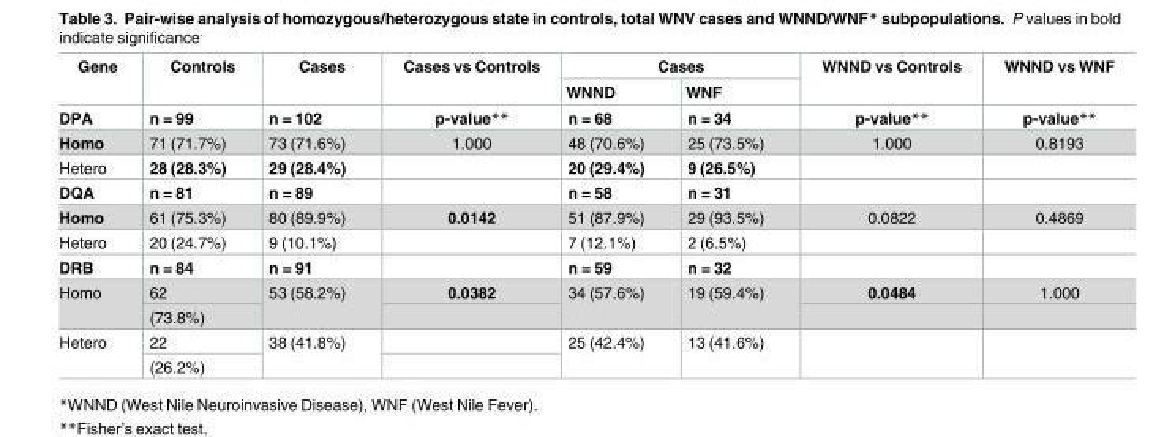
<table><thead><tr><td rowspan="2">Gene</td><td rowspan="2">Controls</td><td rowspan="2">Cases</td><td rowspan="2">Cases vs Controls</td><td colspan="2">Cases</td><td rowspan="2">WNND vs Controls</td><td rowspan="2">WNND vs WNF</td></tr><tr><td>WNND</td><td>WNF</td></tr></thead><tbody><tr><td>DPA</td><td>n = 99</td><td>n = 102</td><td>p-value**</td><td>n = 68</td><td>n = 34</td><td>p-value**</td><td>p-value**</td></tr><tr><td>Homo</td><td>71 (71.7%)</td><td>73 (71.6%)</td><td>1.000</td><td>48 (70.6%)</td><td>25 (73.5%)</td><td>1.000</td><td>0.8193</td></tr><tr><td>Hetero</td><td>28 (28.3%)</td><td>29 (28.4%)</td><td></td><td>20 (29.4%)</td><td>9 (26.5%)</td><td></td><td></td></tr><tr><td>DQA</td><td>n = 81</td><td>n = 89</td><td></td><td>n = 58</td><td>n = 31</td><td></td><td></td></tr><tr><td>Homo</td><td>61 (75.3%)</td><td>80 (89.9%)</td><td>0.0142</td><td>51 (87.9%)</td><td>29 (93.5%)</td><td>0.0822</td><td>0.4869</td></tr><tr><td>Hetero</td><td>20 (24.7%)</td><td>9 (10.1%)</td><td></td><td>7 (12.1%)</td><td>2 (6.5%)</td><td></td><td></td></tr><tr><td>DRB</td><td>n = 84</td><td>n = 91</td><td></td><td>n = 59</td><td>n = 32</td><td></td><td></td></tr><tr><td rowspan="2">Homo</td><td>62</td><td rowspan="2">53 (58.2%)</td><td>0.0382</td><td rowspan="2">34 (57.6%)</td><td rowspan="2">19 (59.4%)</td><td>0.0484</td><td>1.000</td></tr><tr><td>(73.8%)</td><td></td><td></td><td></td></tr><tr><td rowspan="2">Hetero</td><td>22</td><td rowspan="2">38 (41.8%)</td><td></td><td rowspan="2">25 (42.4%)</td><td rowspan="2">13 (41.6%)</td><td rowspan="2"></td><td rowspan="2"></td></tr><tr><td>(26.2%)</td><td></td></tr></tbody></table>